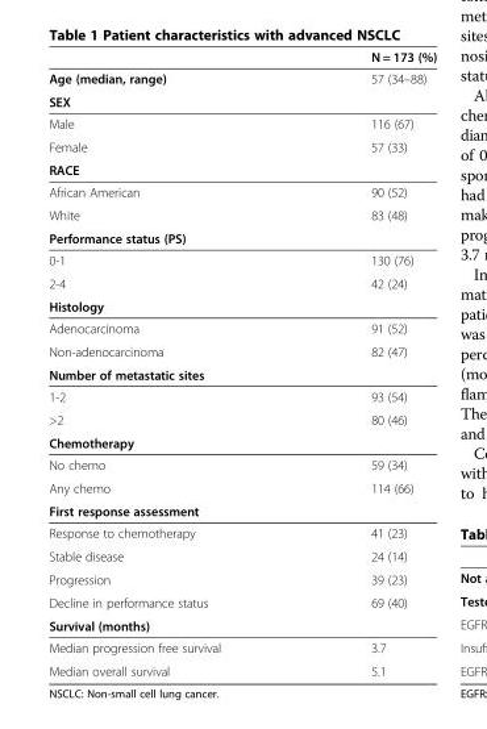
<table><thead><tr><td></td><td>N = 173 (%)</td></tr></thead><tbody><tr><td>Age (median, range)</td><td>57 (34–88)</td></tr><tr><td colspan="2">SEX</td></tr><tr><td>Male</td><td>116 (67)</td></tr><tr><td>Female</td><td>57 (33)</td></tr><tr><td colspan="2">RACE</td></tr><tr><td>African American</td><td>90 (52)</td></tr><tr><td>White</td><td>83 (48)</td></tr><tr><td colspan="2">Performance status (PS)</td></tr><tr><td>0-1</td><td>130 (76)</td></tr><tr><td>2-4</td><td>42 (24)</td></tr><tr><td colspan="2">Histology</td></tr><tr><td>Adenocarcinoma</td><td>91 (52)</td></tr><tr><td>Non-adenocarcinoma</td><td>82 (47)</td></tr><tr><td colspan="2">Number of metastatic sites</td></tr><tr><td>1-2</td><td>93 (54)</td></tr><tr><td>&gt;2</td><td>80 (46)</td></tr><tr><td colspan="2">Chemotherapy</td></tr><tr><td>No chemo</td><td>59 (34)</td></tr><tr><td>Any chemo</td><td>114 (66)</td></tr><tr><td colspan="2">First response assessment</td></tr><tr><td>Response to chemotherapy</td><td>41 (23)</td></tr><tr><td>Stable disease</td><td>24 (14)</td></tr><tr><td>Progression</td><td>39 (23)</td></tr><tr><td>Decline in performance status</td><td>69 (40)</td></tr><tr><td colspan="2">Survival (months)</td></tr><tr><td>Median progression free survival</td><td>3.7</td></tr><tr><td>Median overall survival</td><td>5.1</td></tr></tbody></table>